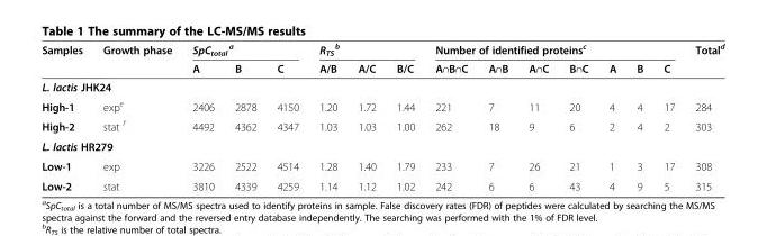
<table><thead><tr><td rowspan="2">Samples</td><td rowspan="2">Growth phase</td><td colspan="3">SpC<sub>total</sub> <sup>a</sup></td><td colspan="3">R<sub>TS</sub> <sup>b</sup></td><td colspan="7">Number of identified proteins<sup>c</sup></td><td rowspan="2">Total<sup>d</sup></td></tr><tr><td>A</td><td>B</td><td>C</td><td>A/B</td><td>A/C</td><td>B/C</td><td>A∩B∩C</td><td>A∩B</td><td>A∩C</td><td>B∩C</td><td>A</td><td>B</td><td>C</td></tr></thead><tbody><tr><td colspan="16">L. lactis JHK24</td></tr><tr><td>High-1</td><td>exp<sup>e</sup></td><td>2406</td><td>2878</td><td>4150</td><td>1.20</td><td>1.72</td><td>1.44</td><td>221</td><td>7</td><td>11</td><td>20</td><td>4</td><td>4</td><td>17</td><td>284</td></tr><tr><td>High-2</td><td>stat <sup>f</sup></td><td>4492</td><td>4362</td><td>4347</td><td>1.03</td><td>1.03</td><td>1.00</td><td>262</td><td>18</td><td>9</td><td>6</td><td>2</td><td>4</td><td>2</td><td>303</td></tr><tr><td colspan="16">L. lactis HR279</td></tr><tr><td>Low-1</td><td>exp</td><td>3226</td><td>2522</td><td>4514</td><td>1.28</td><td>1.40</td><td>1.79</td><td>233</td><td>7</td><td>26</td><td>21</td><td>1</td><td>3</td><td>17</td><td>308</td></tr><tr><td>Low-2</td><td>stat</td><td>3810</td><td>4339</td><td>4259</td><td>1.14</td><td>1.12</td><td>1.02</td><td>242</td><td>6</td><td>6</td><td>43</td><td>4</td><td>9</td><td>5</td><td>315</td></tr></tbody></table>